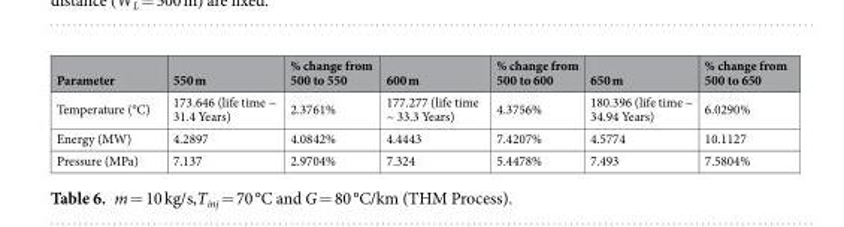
<table><thead><tr><td>Parameter</td><td>550 m</td><td>% change from 500 to 550</td><td>600 m</td><td>% change from 500 to 600</td><td>650 m</td><td>% change from 500 to 650</td></tr></thead><tbody><tr><td>Temperature (°C)</td><td>173.646 (life time ~ 31.4 Years)</td><td>2.3761%</td><td>177.277 (life time ~ 33.3 Years)</td><td>4.3756%</td><td>180.396 (life time ~ 34.94 Years)</td><td>6.0290%</td></tr><tr><td>Energy (MW)</td><td>4.2897</td><td>4.0842%</td><td>4.4443</td><td>7.4207%</td><td>4.5774</td><td>10.1127</td></tr><tr><td>Pressure (MPa)</td><td>7.137</td><td>2.9704%</td><td>7.324</td><td>5.4478%</td><td>7.493</td><td>7.5804%</td></tr></tbody></table>